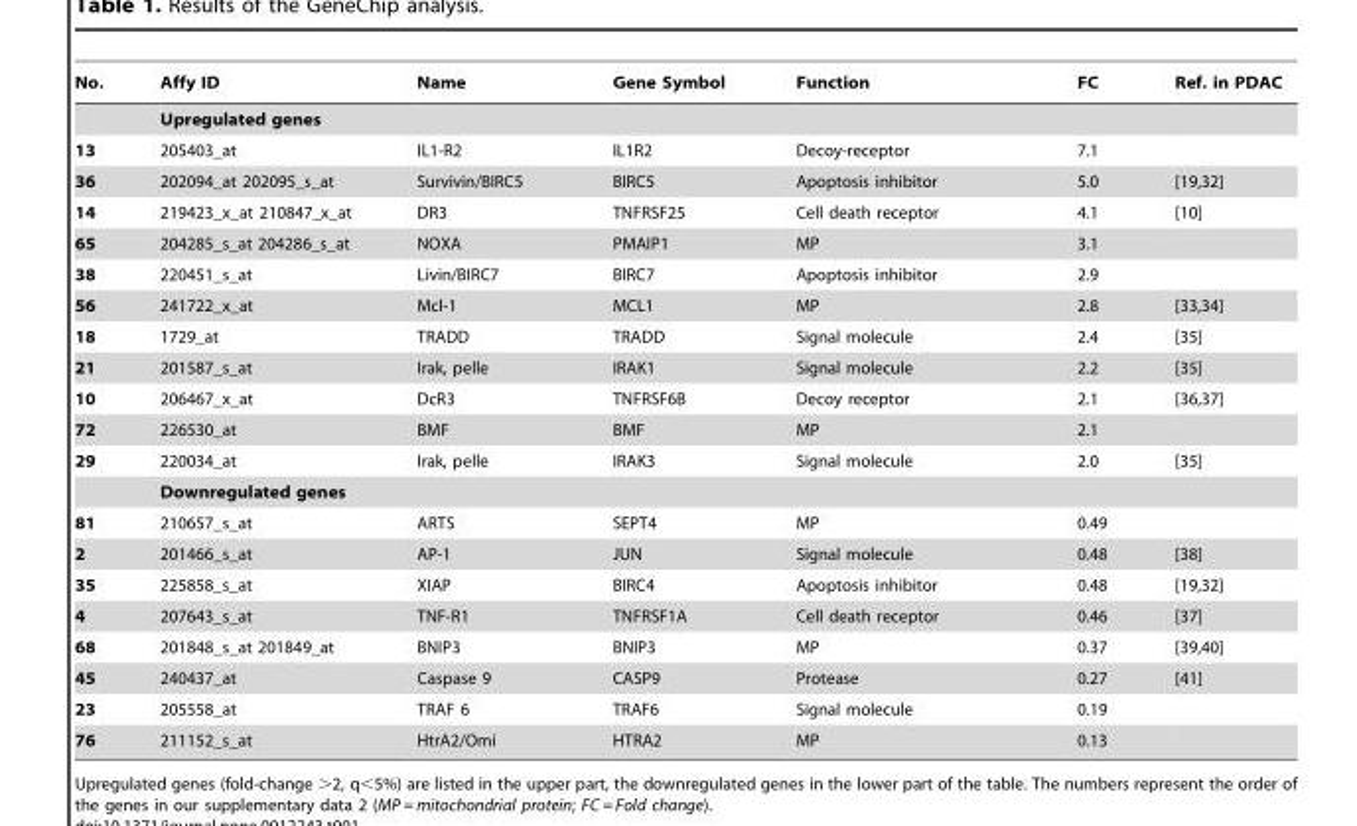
<table><thead><tr><td>No.</td><td>Affy ID</td><td>Name</td><td>Gene Symbol</td><td>Function</td><td>FC</td><td>Ref. in PDAC</td></tr></thead><tbody><tr><td></td><td colspan="6">Upregulated genes</td></tr><tr><td>13</td><td>205403_at</td><td>IL1-R2</td><td>IL1R2</td><td>Decoy-receptor</td><td>7.1</td><td></td></tr><tr><td>36</td><td>202094_at 202095_s_at</td><td>Survivin/BIRC5</td><td>BIRC5</td><td>Apoptosis inhibitor</td><td>5.0</td><td>[19,32]</td></tr><tr><td>14</td><td>219423_x_at 210847_x_at</td><td>DR3</td><td>TNFRSF25</td><td>Cell death receptor</td><td>4.1</td><td>[10]</td></tr><tr><td>65</td><td>204285_s_at 204286_s_at</td><td>NOXA</td><td>PMAIP1</td><td>MP</td><td>3.1</td><td></td></tr><tr><td>38</td><td>220451_s_at</td><td>Livin/BIRC7</td><td>BIRC7</td><td>Apoptosis inhibitor</td><td>2.9</td><td></td></tr><tr><td>56</td><td>241722_x_at</td><td>Mcl-1</td><td>MCL1</td><td>MP</td><td>2.8</td><td>[33,34]</td></tr><tr><td>18</td><td>1729_at</td><td>TRADD</td><td>TRADD</td><td>Signal molecule</td><td>2.4</td><td>[35]</td></tr><tr><td>21</td><td>201587_s_at</td><td>Irak, pelle</td><td>IRAK1</td><td>Signal molecule</td><td>2.2</td><td>[35]</td></tr><tr><td>10</td><td>206467_x_at</td><td>DcR3</td><td>TNFRSF6B</td><td>Decoy receptor</td><td>2.1</td><td>[36,37]</td></tr><tr><td>72</td><td>226530_at</td><td>BMF</td><td>BMF</td><td>MP</td><td>2.1</td><td></td></tr><tr><td rowspan="2">29</td><td>220034_at</td><td>Irak, pelle</td><td>IRAK3</td><td>Signal molecule</td><td>2.0</td><td>[35]</td></tr><tr><td colspan="6">Downregulated genes</td></tr><tr><td>81</td><td>210657_s_at</td><td>ARTS</td><td>SEPT4</td><td>MP</td><td>0.49</td><td></td></tr><tr><td>2</td><td>201466_s_at</td><td>AP-1</td><td>JUN</td><td>Signal molecule</td><td>0.48</td><td>[38]</td></tr><tr><td>35</td><td>225858_s_at</td><td>XIAP</td><td>BIRC4</td><td>Apoptosis inhibitor</td><td>0.48</td><td>[19,32]</td></tr><tr><td>4</td><td>207643_s_at</td><td>TNF-R1</td><td>TNFRSF1A</td><td>Cell death receptor</td><td>0.46</td><td>[37]</td></tr><tr><td>68</td><td>201848_s_at 201849_at</td><td>BNIP3</td><td>BNIP3</td><td>MP</td><td>0.37</td><td>[39,40]</td></tr><tr><td>45</td><td>240437_at</td><td>Caspase 9</td><td>CASP9</td><td>Protease</td><td>0.27</td><td>[41]</td></tr><tr><td>23</td><td>205558_at</td><td>TRAF 6</td><td>TRAF6</td><td>Signal molecule</td><td>0.19</td><td></td></tr><tr><td>76</td><td>211152_s_at</td><td>HtrA2/Omi</td><td>HTRA2</td><td>MP</td><td>0.13</td><td></td></tr></tbody></table>